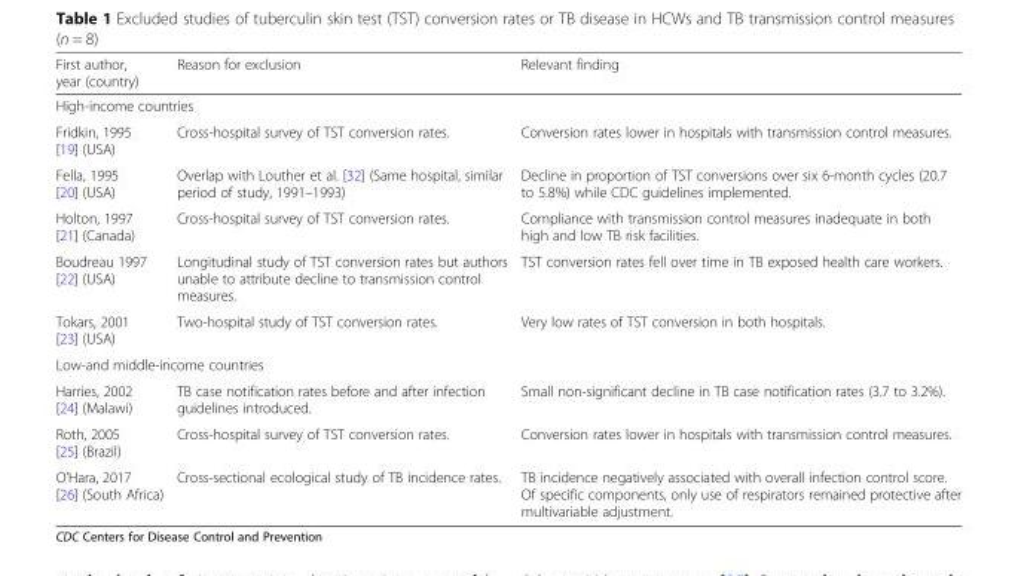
<table><thead><tr><td>First author, year (country)</td><td>Reason for exclusion</td><td>Relevant finding</td></tr></thead><tbody><tr><td colspan="3">High-income countries</td></tr><tr><td>Fridkin, 1995 [19] (USA)</td><td>Cross-hospital survey of TST conversion rates.</td><td>Conversion rates lower in hospitals with transmission control measures.</td></tr><tr><td>Fella, 1995 [20] (USA)</td><td>Overlap with Louther et al. [32] (Same hospital, similar period of study, 1991–1993)</td><td>Decline in proportion of TST conversions over six 6-month cycles (20.7 to 5.8%) while CDC guidelines implemented.</td></tr><tr><td>Holton, 1997 [21] (Canada)</td><td>Cross-hospital survey of TST conversion rates.</td><td>Compliance with transmission control measures inadequate in both high and low TB risk facilities.</td></tr><tr><td>Boudreau 1997 [22] (USA)</td><td>Longitudinal study of TST conversion rates but authors unable to attribute decline to transmission control measures.</td><td>TST conversion rates fell over time in TB exposed health care workers.</td></tr><tr><td>Tokars, 2001 [23] (USA)</td><td>Two-hospital study of TST conversion rates.</td><td>Very low rates of TST conversion in both hospitals.</td></tr><tr><td colspan="3">Low-and middle-income countries</td></tr><tr><td>Harries, 2002 [24] (Malawi)</td><td>TB case notification rates before and after infection guidelines introduced.</td><td>Small non-significant decline in TB case notification rates (3.7 to 3.2%).</td></tr><tr><td>Roth, 2005 [25] (Brazil)</td><td>Cross-hospital survey of TST conversion rates.</td><td>Conversion rates lower in hospitals with transmission control measures.</td></tr><tr><td>O’Hara, 2017 [26] (South Africa)</td><td>Cross-sectional ecological study of TB incidence rates.</td><td>TB incidence negatively associated with overall infection control score. Of specific components, only use of respirators remained protective after multivariable adjustment.</td></tr></tbody></table>